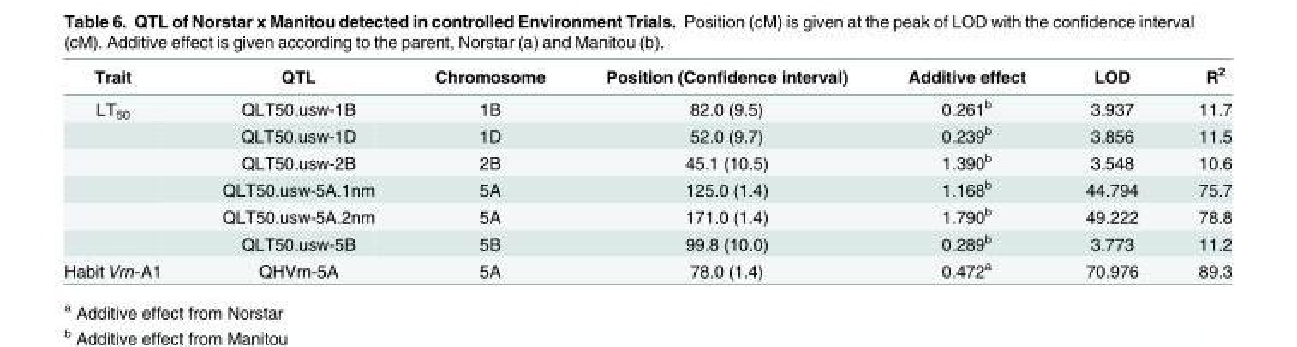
<table><thead><tr><td>Trait</td><td>QTL</td><td>Chromosome</td><td>Position (Confidence interval)</td><td>Additive effect</td><td>LOD</td><td>R<sup>2</sup></td></tr></thead><tbody><tr><td rowspan="6">LT<sub>50</sub></td><td>QLT50.usw-1B</td><td>1B</td><td>82.0 (9.5)</td><td>0.261<sup>b</sup></td><td>3.937</td><td>11.7</td></tr><tr><td>QLT50.usw-1D</td><td>1D</td><td>52.0 (9.7)</td><td>0.239<sup>b</sup></td><td>3.856</td><td>11.5</td></tr><tr><td>QLT50.usw-2B</td><td>2B</td><td>45.1 (10.5)</td><td>1.390<sup>b</sup></td><td>3.548</td><td>10.6</td></tr><tr><td>QLT50.usw-5A.1nm</td><td>5A</td><td>125.0 (1.4)</td><td>1.168<sup>b</sup></td><td>44.794</td><td>75.7</td></tr><tr><td>QLT50.usw-5A.2nm</td><td>5A</td><td>171.0 (1.4)</td><td>1.790<sup>b</sup></td><td>49.222</td><td>78.8</td></tr><tr><td>QLT50.usw-5B</td><td>5B</td><td>99.8 (10.0)</td><td>0.289<sup>b</sup></td><td>3.773</td><td>11.2</td></tr><tr><td>Habit Vrn-A1</td><td>QHVrn-5A</td><td>5A</td><td>78.0 (1.4)</td><td>0.472<sup>a</sup></td><td>70.976</td><td>89.3</td></tr></tbody></table>